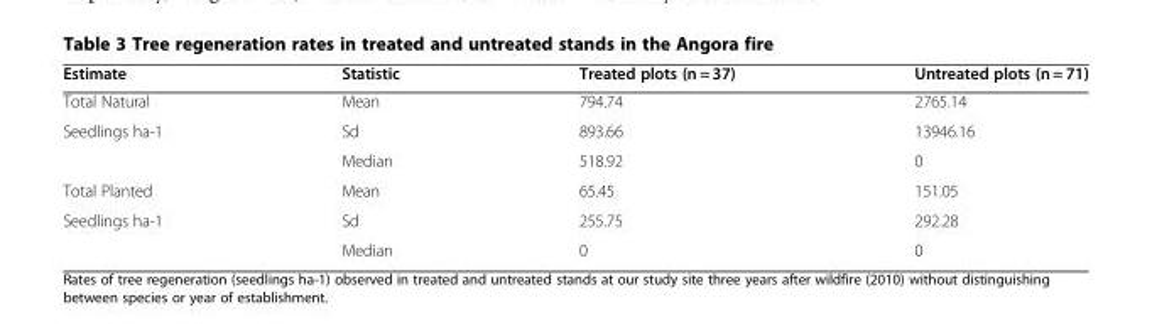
<table><thead><tr><td>Estimate</td><td>Statistic</td><td>Treated plots (n = 37)</td><td>Untreated plots (n = 71)</td></tr></thead><tbody><tr><td>Total Natural</td><td>Mean</td><td>794.74</td><td>2765.14</td></tr><tr><td rowspan="2">Seedlings ha-1</td><td>Sd</td><td>893.66</td><td>13946.16</td></tr><tr><td>Median</td><td>518.92</td><td>0</td></tr><tr><td>Total Planted</td><td>Mean</td><td>65.45</td><td>151.05</td></tr><tr><td rowspan="2">Seedlings ha-1</td><td>Sd</td><td>255.75</td><td>292.28</td></tr><tr><td>Median</td><td>0</td><td>0</td></tr></tbody></table>